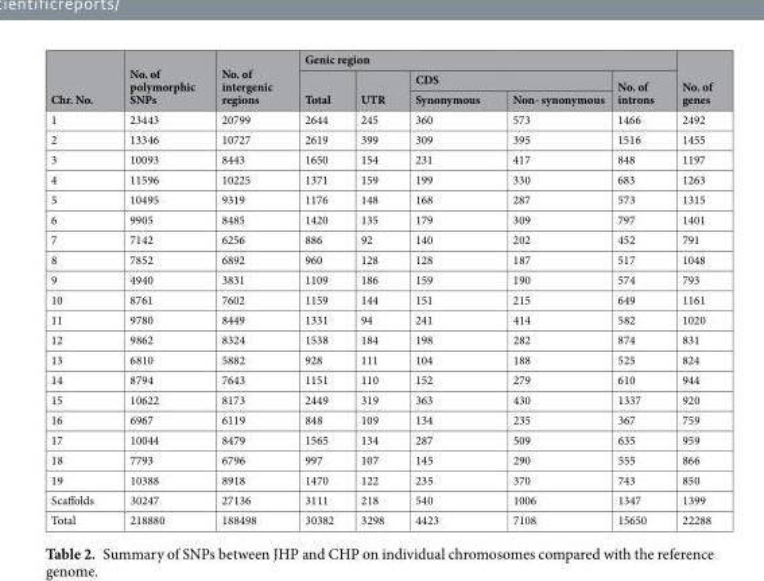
<table><thead><tr><td rowspan="3">Chr. No.</td><td rowspan="3">No. of polymorphic SNPs</td><td rowspan="3">No. of intergenic regions</td><td colspan="5">Genic region</td><td rowspan="3">No. of genes</td></tr><tr><td rowspan="2">Total</td><td rowspan="2">UTR</td><td colspan="2">CDS</td><td rowspan="2">No. of introns</td></tr><tr><td>Synonymous</td><td>Non- synonymous</td></tr></thead><tbody><tr><td>1</td><td>23443</td><td>20799</td><td>2644</td><td>245</td><td>360</td><td>573</td><td>1466</td><td>2492</td></tr><tr><td>2</td><td>13346</td><td>10727</td><td>2619</td><td>399</td><td>309</td><td>395</td><td>1516</td><td>1455</td></tr><tr><td>3</td><td>10093</td><td>8443</td><td>1650</td><td>154</td><td>231</td><td>417</td><td>848</td><td>1197</td></tr><tr><td>4</td><td>11596</td><td>10225</td><td>1371</td><td>159</td><td>199</td><td>330</td><td>683</td><td>1263</td></tr><tr><td>5</td><td>10495</td><td>9319</td><td>1176</td><td>148</td><td>168</td><td>287</td><td>573</td><td>1315</td></tr><tr><td>6</td><td>9905</td><td>8485</td><td>1420</td><td>135</td><td>179</td><td>309</td><td>797</td><td>1401</td></tr><tr><td>7</td><td>7142</td><td>6256</td><td>886</td><td>92</td><td>140</td><td>202</td><td>452</td><td>791</td></tr><tr><td>8</td><td>7852</td><td>6892</td><td>960</td><td>128</td><td>128</td><td>187</td><td>517</td><td>1048</td></tr><tr><td>9</td><td>4940</td><td>3831</td><td>1109</td><td>186</td><td>159</td><td>190</td><td>574</td><td>793</td></tr><tr><td>10</td><td>8761</td><td>7602</td><td>1159</td><td>144</td><td>151</td><td>215</td><td>649</td><td>1161</td></tr><tr><td>11</td><td>9780</td><td>8449</td><td>1331</td><td>94</td><td>241</td><td>414</td><td>582</td><td>1020</td></tr><tr><td>12</td><td>9862</td><td>8324</td><td>1538</td><td>184</td><td>198</td><td>282</td><td>874</td><td>831</td></tr><tr><td>13</td><td>6810</td><td>5882</td><td>928</td><td>111</td><td>104</td><td>188</td><td>525</td><td>824</td></tr><tr><td>14</td><td>8794</td><td>7643</td><td>1151</td><td>110</td><td>152</td><td>279</td><td>610</td><td>944</td></tr><tr><td>15</td><td>10622</td><td>8173</td><td>2449</td><td>319</td><td>363</td><td>430</td><td>1337</td><td>920</td></tr><tr><td>16</td><td>6967</td><td>6119</td><td>848</td><td>109</td><td>134</td><td>235</td><td>367</td><td>759</td></tr><tr><td>17</td><td>10044</td><td>8479</td><td>1565</td><td>134</td><td>287</td><td>509</td><td>635</td><td>959</td></tr><tr><td>18</td><td>7793</td><td>6796</td><td>997</td><td>107</td><td>145</td><td>290</td><td>555</td><td>866</td></tr><tr><td>19</td><td>10388</td><td>8918</td><td>1470</td><td>122</td><td>235</td><td>370</td><td>743</td><td>850</td></tr><tr><td>Scaffolds</td><td>30247</td><td>27136</td><td>3111</td><td>218</td><td>540</td><td>1006</td><td>1347</td><td>1399</td></tr><tr><td>Total</td><td>218880</td><td>188498</td><td>30382</td><td>3298</td><td>4423</td><td>7108</td><td>15650</td><td>22288</td></tr></tbody></table>